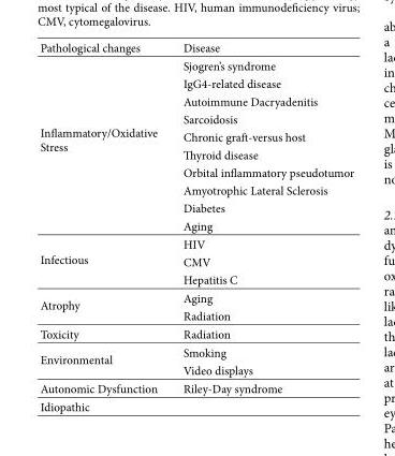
<table><thead><tr><td>Pathological changes</td><td>Disease</td></tr></thead><tbody><tr><td rowspan="10">Inflammatory/Oxidative Stress</td><td>Sjogren’s syndrome</td></tr><tr><td>IgG4-related disease</td></tr><tr><td>Autoimmune Dacryadenitis</td></tr><tr><td>Sarcoidosis</td></tr><tr><td>Chronic graft-versus host</td></tr><tr><td>Thyroid disease</td></tr><tr><td>Orbital inflammatory pseudotumor</td></tr><tr><td>Amyotrophic Lateral Sclerosis</td></tr><tr><td>Diabetes</td></tr><tr><td>Aging</td></tr><tr><td rowspan="3">Infectious</td><td>HIV</td></tr><tr><td>CMV</td></tr><tr><td>Hepatitis C</td></tr><tr><td rowspan="2">Atrophy</td><td>Aging</td></tr><tr><td>Radiation</td></tr><tr><td>Toxicity</td><td>Radiation</td></tr><tr><td rowspan="2">Environmental</td><td>Smoking</td></tr><tr><td>Video displays</td></tr><tr><td>Autonomic Dysfunction</td><td>Riley-Day syndrome</td></tr><tr><td>Idiopathic</td><td></td></tr></tbody></table>